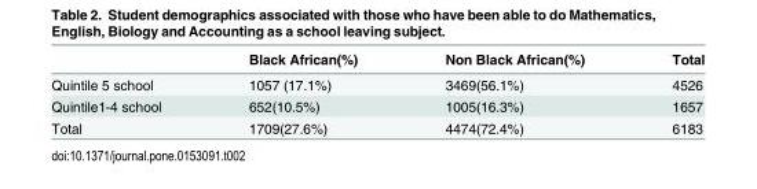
<table><thead><tr><td></td><td>Black African(%)</td><td>Non Black African(%)</td><td>Total</td></tr></thead><tbody><tr><td>Quintile 5 school</td><td>1057 (17.1%)</td><td>3469(56.1%)</td><td>4526</td></tr><tr><td>Quintile1-4 school</td><td>652(10.5%)</td><td>1005(16.3%)</td><td>1657</td></tr><tr><td>Total</td><td>1709(27.6%)</td><td>4474(72.4%)</td><td>6183</td></tr></tbody></table>